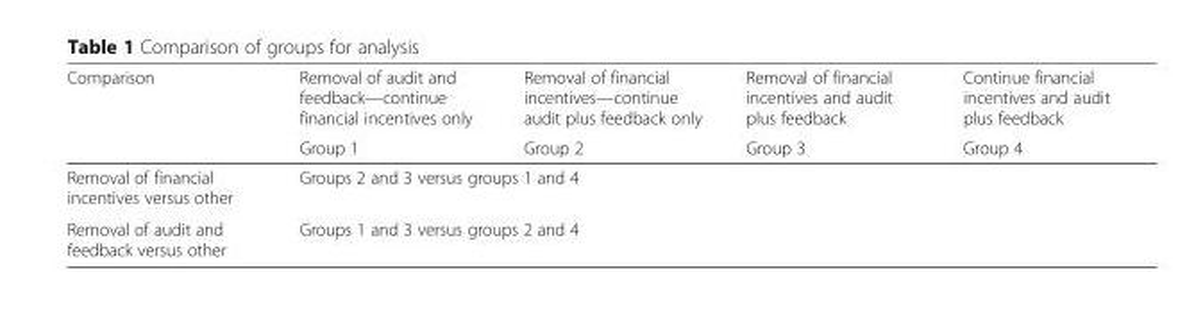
<table><thead><tr><td rowspan="2">Comparison</td><td rowspan="2">Removal of audit and feedback—continue financial incentives only Group 1</td><td rowspan="2">Removal of financial incentives—continue audit plus feedback only Group 2</td><td rowspan="2">Removal of financial incentives and audit plus feedback Group 3</td><td rowspan="2">Continue financial incentives and audit plus feedback Group 4</td></tr><tr></tr></thead><tbody><tr><td>Removal of financial incentives versus other</td><td colspan="4">Groups 2 and 3 versus groups 1 and 4</td></tr><tr><td>Removal of audit and feedback versus other</td><td colspan="4">Groups 1 and 3 versus groups 2 and 4</td></tr></tbody></table>